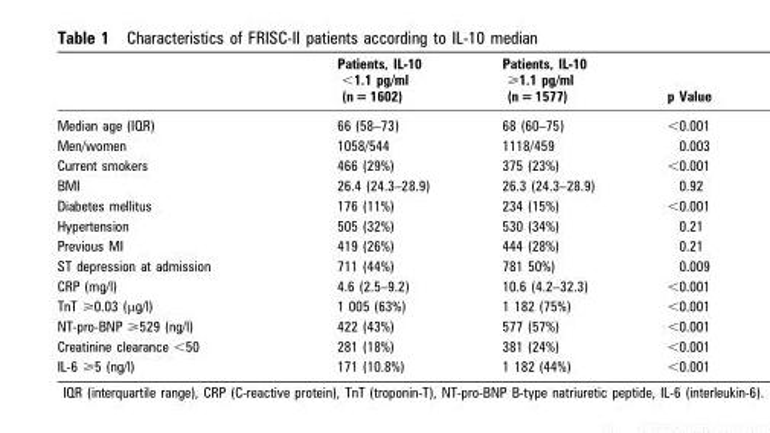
<table><thead><tr><td></td><td>Patients, IL-10 &lt;1.1 pg/ml (n = 1602)</td><td>Patients, IL-10 &gt;1.1 pg/ml (n = 1577)</td><td>p Value</td></tr></thead><tbody><tr><td>Median age (IQR)</td><td>66 (58–73)</td><td>68 (60–75)</td><td>&lt;0.001</td></tr><tr><td>Men/women</td><td>1058/544</td><td>1118/459</td><td>0.003</td></tr><tr><td>Current smokers</td><td>466 (29%)</td><td>375 (23%)</td><td>&lt;0.001</td></tr><tr><td>BMI</td><td>26.4 (24.3–28.9)</td><td>26.3 (24.3–28.9)</td><td>0.92</td></tr><tr><td>Diabetes mellitus</td><td>176 (11%)</td><td>234 (15%)</td><td>&lt;0.001</td></tr><tr><td>Hypertension</td><td>505 (32%)</td><td>530 (34%)</td><td>0.21</td></tr><tr><td>Previous MI</td><td>419 (26%)</td><td>444 (28%)</td><td>0.21</td></tr><tr><td>ST depression at admission</td><td>711 (44%)</td><td>781 50%)</td><td>0.009</td></tr><tr><td>CRP (mg/l)</td><td>4.6 (2.5–9.2)</td><td>10.6 (4.2–32.3)</td><td>&lt;0.001</td></tr><tr><td>TnT &gt;0.03 (mg/l)</td><td>1 005 (63%)</td><td>1 182 (75%)</td><td>&lt;0.001</td></tr><tr><td>NT-pro-BNP &gt;529 (ng/l)</td><td>422 (43%)</td><td>577 (57%)</td><td>&lt;0.001</td></tr><tr><td>Creatinine clearance &lt;50</td><td>281 (18%)</td><td>381 (24%)</td><td>&lt;0.001</td></tr><tr><td>IL-6 &gt;5 (ng/l)</td><td>171 (10.8%)</td><td>1 182 (44%)</td><td>&lt;0.001</td></tr></tbody></table>